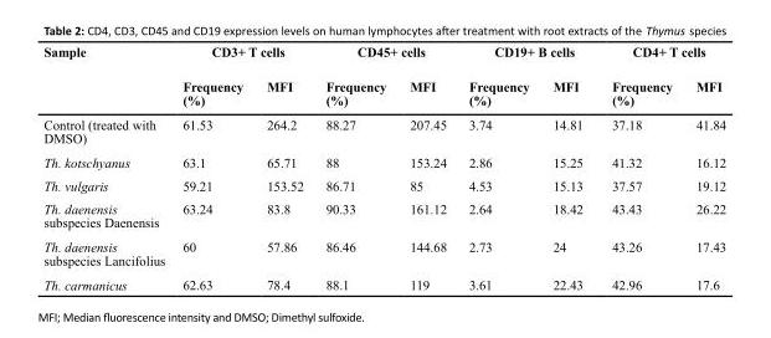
<table><thead><tr><td rowspan="2">Sample</td><td colspan="2">CD3+ T cells</td><td colspan="2">CD45+ cells</td><td colspan="2">CD19+ B cells</td><td colspan="2">CD4+ T cells</td></tr><tr><td>Frequency (%)</td><td>MFI</td><td>Frequency (%)</td><td>MFI</td><td>Frequency (%)</td><td>MFI</td><td>Frequency (%)</td><td>MFI</td></tr></thead><tbody><tr><td>Control (treated with DMSO)</td><td>61.53</td><td>264.2</td><td>88.27</td><td>207.45</td><td>3.74</td><td>14.81</td><td>37.18</td><td>41.84</td></tr><tr><td>Th. kotschyanus</td><td>63.1</td><td>65.71</td><td>88</td><td>153.24</td><td>2.86</td><td>15.25</td><td>41.32</td><td>16.12</td></tr><tr><td>Th. vulgaris</td><td>59.21</td><td>153.52</td><td>86.71</td><td>85</td><td>4.53</td><td>15.13</td><td>37.57</td><td>19.12</td></tr><tr><td>Th. daenensis subspecies Daenensis</td><td>63.24</td><td>83.8</td><td>90.33</td><td>161.12</td><td>2.64</td><td>18.42</td><td>43.43</td><td>26.22</td></tr><tr><td>Th. daenensis subspecies Lancifolius</td><td>60</td><td>57.86</td><td>86.46</td><td>144.68</td><td>2.73</td><td>24</td><td>43.26</td><td>17.43</td></tr><tr><td>Th. carmanicus</td><td>62.63</td><td>78.4</td><td>88.1</td><td>119</td><td>3.61</td><td>22.43</td><td>42.96</td><td>17.6</td></tr></tbody></table>